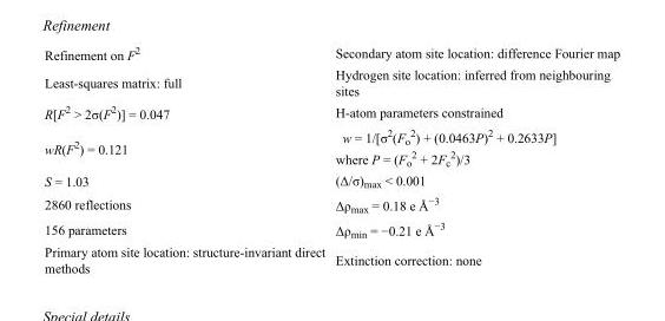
<table><tbody><tr><td>Refinement on F<sup>2</sup></td><td>Secondary atom site location: difference Fourier map</td></tr><tr><td>Least-squares matrix: full</td><td>Hydrogen site location: inferred from neighbouring sites</td></tr><tr><td>R[F<sup>2</sup> &gt; 2σ(F<sup>2</sup>)] = 0.047</td><td>H-atom parameters constrained</td></tr><tr><td>wR(F<sup>2</sup>) = 0.121</td><td>w = 1/[σ<sup>2</sup>(F<sub>o</sub> <sup>2</sup>) + (0.0463P)<sup>2</sup> + 0.2633P] where P = (F<sub>o</sub> <sup>2</sup> + 2F<sub>c</sub> <sup>2</sup>)/3</td></tr><tr><td>S = 1.03</td><td>(Δ/σ)<sub>max</sub> &lt; 0.001</td></tr><tr><td>2860 reflections</td><td>Δρ<sub>max</sub> = 0.18 e Å<sup>−3</sup></td></tr><tr><td>156 parameters</td><td>Δρ<sub>min</sub> = −0.21 e Å<sup>−3</sup></td></tr><tr><td>Primary atom site location: structure-invariant direct methods</td><td>Extinction correction: none</td></tr></tbody></table>